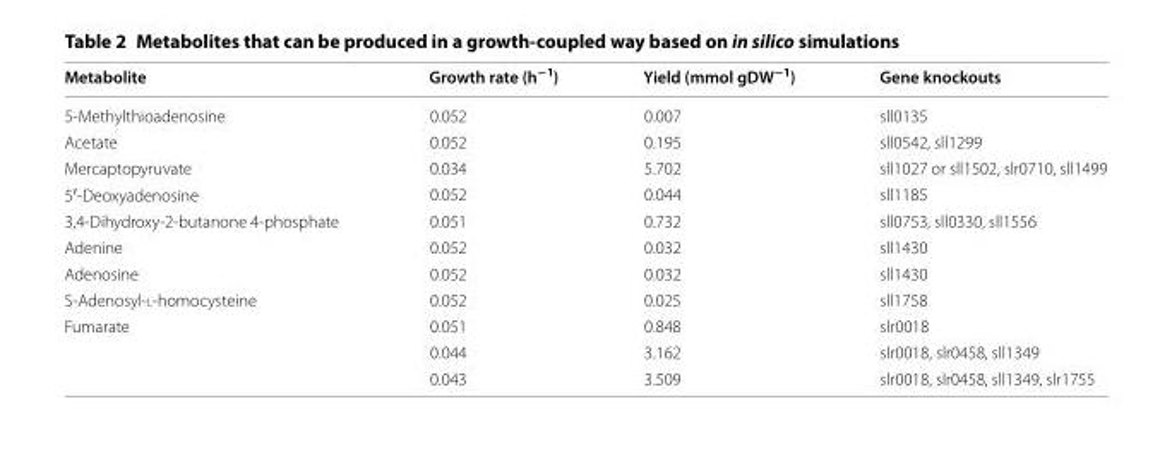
<table><thead><tr><td>Metabolite</td><td>Growth rate (h<sup>−1</sup>)</td><td>Yield (mmol gDW<sup>−1</sup>)</td><td>Gene knockouts</td></tr></thead><tbody><tr><td>5-Methylthioadenosine</td><td>0.052</td><td>0.007</td><td>sll0135</td></tr><tr><td>Acetate</td><td>0.052</td><td>0.195</td><td>sll0542, sll1299</td></tr><tr><td>Mercaptopyruvate</td><td>0.034</td><td>5.702</td><td>sll1027 or sll1502, slr0710, sll1499</td></tr><tr><td>5′-Deoxyadenosine</td><td>0.052</td><td>0.044</td><td>sll1185</td></tr><tr><td>3,4-Dihydroxy-2-butanone 4-phosphate</td><td>0.051</td><td>0.732</td><td>sll0753, sll0330, sll1556</td></tr><tr><td>Adenine</td><td>0.052</td><td>0.032</td><td>sll1430</td></tr><tr><td>Adenosine</td><td>0.052</td><td>0.032</td><td>sll1430</td></tr><tr><td>S-Adenosyl-l-homocysteine</td><td>0.052</td><td>0.025</td><td>sll1758</td></tr><tr><td rowspan="3">Fumarate</td><td>0.051</td><td>0.848</td><td>slr0018</td></tr><tr><td>0.044</td><td>3.162</td><td>slr0018, slr0458, sll1349</td></tr><tr><td>0.043</td><td>3.509</td><td>slr0018, slr0458, sll1349, slr1755</td></tr></tbody></table>